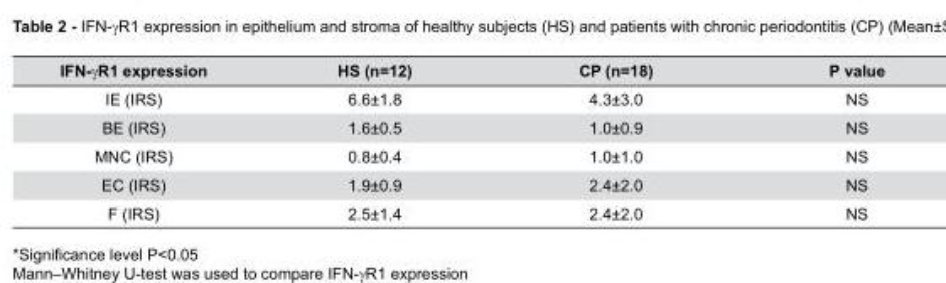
<table><thead><tr><td>IFN-γR1 expression</td><td>HS (n=12)</td><td>CP (n=18)</td><td>P value</td></tr></thead><tbody><tr><td>IE (IRS)</td><td>6.6±1.8</td><td>4.3±3.0</td><td>NS</td></tr><tr><td>BE (IRS)</td><td>1.6±0.5</td><td>1.0±0.9</td><td>NS</td></tr><tr><td>MNC (IRS)</td><td>0.8±0.4</td><td>1.0±1.0</td><td>NS</td></tr><tr><td>EC (IRS)</td><td>1.9±0.9</td><td>2.4±2.0</td><td>NS</td></tr><tr><td>F (IRS)</td><td>2.5±1.4</td><td>2.4±2.0</td><td>NS</td></tr></tbody></table>